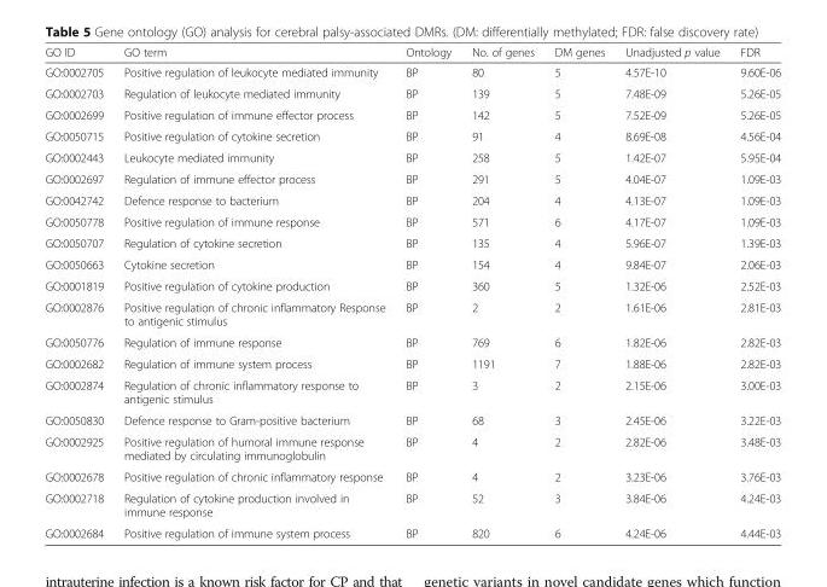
<table><thead><tr><td>GO ID</td><td>GO term</td><td>Ontology</td><td>No. of genes</td><td>DM genes</td><td>Unadjusted p value</td><td>FDR</td></tr></thead><tbody><tr><td>GO:0002705</td><td>Positive regulation of leukocyte mediated immunity</td><td>BP</td><td>80</td><td>5</td><td>4.57E-10</td><td>9.60E-06</td></tr><tr><td>GO:0002703</td><td>Regulation of leukocyte mediated immunity</td><td>BP</td><td>139</td><td>5</td><td>7.48E-09</td><td>5.26E-05</td></tr><tr><td>GO:0002699</td><td>Positive regulation of immune effector process</td><td>BP</td><td>142</td><td>5</td><td>7.52E-09</td><td>5.26E-05</td></tr><tr><td>GO:0050715</td><td>Positive regulation of cytokine secretion</td><td>BP</td><td>91</td><td>4</td><td>8.69E-08</td><td>4.56E-04</td></tr><tr><td>GO:0002443</td><td>Leukocyte mediated immunity</td><td>BP</td><td>258</td><td>5</td><td>1.42E-07</td><td>5.95E-04</td></tr><tr><td>GO:0002697</td><td>Regulation of immune effector process</td><td>BP</td><td>291</td><td>5</td><td>4.04E-07</td><td>1.09E-03</td></tr><tr><td>GO:0042742</td><td>Defence response to bacterium</td><td>BP</td><td>204</td><td>4</td><td>4.13E-07</td><td>1.09E-03</td></tr><tr><td>GO:0050778</td><td>Positive regulation of immune response</td><td>BP</td><td>571</td><td>6</td><td>4.17E-07</td><td>1.09E-03</td></tr><tr><td>GO:0050707</td><td>Regulation of cytokine secretion</td><td>BP</td><td>135</td><td>4</td><td>5.96E-07</td><td>1.39E-03</td></tr><tr><td>GO:0050663</td><td>Cytokine secretion</td><td>BP</td><td>154</td><td>4</td><td>9.84E-07</td><td>2.06E-03</td></tr><tr><td>GO:0001819</td><td>Positive regulation of cytokine production</td><td>BP</td><td>360</td><td>5</td><td>1.32E-06</td><td>2.52E-03</td></tr><tr><td>GO:0002876</td><td>Positive regulation of chronic inflammatory Response to antigenic stimulus</td><td>BP</td><td>2</td><td>2</td><td>1.61E-06</td><td>2.81E-03</td></tr><tr><td>GO:0050776</td><td>Regulation of immune response</td><td>BP</td><td>769</td><td>6</td><td>1.82E-06</td><td>2.82E-03</td></tr><tr><td>GO:0002682</td><td>Regulation of immune system process</td><td>BP</td><td>1191</td><td>7</td><td>1.88E-06</td><td>2.82E-03</td></tr><tr><td>GO:0002874</td><td>Regulation of chronic inflammatory response to antigenic stimulus</td><td>BP</td><td>3</td><td>2</td><td>2.15E-06</td><td>3.00E-03</td></tr><tr><td>GO:0050830</td><td>Defence response to Gram-positive bacterium</td><td>BP</td><td>68</td><td>3</td><td>2.45E-06</td><td>3.22E-03</td></tr><tr><td>GO:0002925</td><td>Positive regulation of humoral immune response mediated by circulating immunoglobulin</td><td>BP</td><td>4</td><td>2</td><td>2.82E-06</td><td>3.48E-03</td></tr><tr><td>GO:0002678</td><td>Positive regulation of chronic inflammatory response</td><td>BP</td><td>4</td><td>2</td><td>3.23E-06</td><td>3.76E-03</td></tr><tr><td>GO:0002718</td><td>Regulation of cytokine production involved in immune response</td><td>BP</td><td>52</td><td>3</td><td>3.84E-06</td><td>4.24E-03</td></tr><tr><td>GO:0002684</td><td>Positive regulation of immune system process</td><td>BP</td><td>820</td><td>6</td><td>4.24E-06</td><td>4.44E-03</td></tr></tbody></table>